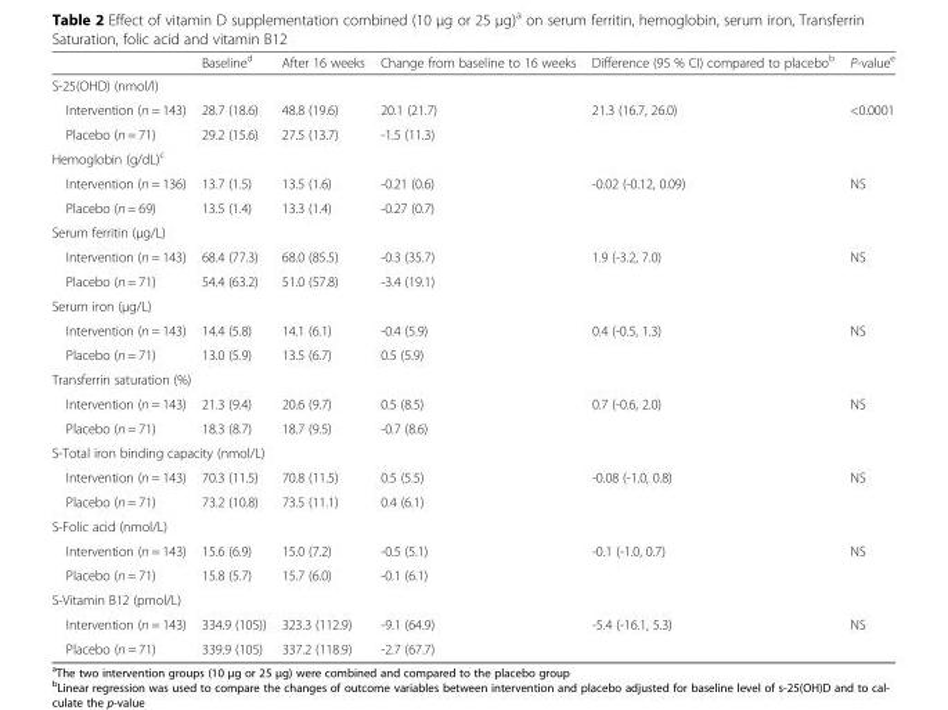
<table><thead><tr><td></td><td>Baseline<sup>d</sup></td><td>After 16 weeks</td><td>Change from baseline to 16 weeks</td><td>Difference (95 % CI) compared to placebo<sup>b</sup></td><td>P-value<sup>e</sup></td></tr></thead><tbody><tr><td colspan="6">S-25(OHD) (nmol/l)</td></tr><tr><td>Intervention (n = 143)</td><td>28.7 (18.6)</td><td>48.8 (19.6)</td><td>20.1 (21.7)</td><td>21.3 (16.7, 26.0)</td><td rowspan="2">&lt;0.0001</td></tr><tr><td>Placebo (n = 71)</td><td>29.2 (15.6)</td><td>27.5 (13.7)</td><td>-1.5 (11.3)</td><td></td></tr><tr><td colspan="6">Hemoglobin (g/dL)<sup>c</sup></td></tr><tr><td>Intervention (n = 136)</td><td>13.7 (1.5)</td><td>13.5 (1.6)</td><td>-0.21 (0.6)</td><td>-0.02 (-0.12, 0.09)</td><td rowspan="2">NS</td></tr><tr><td>Placebo (n = 69)</td><td>13.5 (1.4)</td><td>13.3 (1.4)</td><td>-0.27 (0.7)</td><td></td></tr><tr><td colspan="6">Serum ferritin (μg/L)</td></tr><tr><td>Intervention (n = 143)</td><td>68.4 (77.3)</td><td>68.0 (85.5)</td><td>-0.3 (35.7)</td><td>1.9 (-3.2, 7.0)</td><td rowspan="2">NS</td></tr><tr><td>Placebo (n = 71)</td><td>54.4 (63.2)</td><td>51.0 (57.8)</td><td>-3.4 (19.1)</td><td></td></tr><tr><td colspan="6">Serum iron (μg/L)</td></tr><tr><td>Intervention (n = 143)</td><td>14.4 (5.8)</td><td>14.1 (6.1)</td><td>-0.4 (5.9)</td><td>0.4 (-0.5, 1.3)</td><td rowspan="2">NS</td></tr><tr><td>Placebo (n = 71)</td><td>13.0 (5.9)</td><td>13.5 (6.7)</td><td>0.5 (5.9)</td><td></td></tr><tr><td colspan="6">Transferrin saturation (%)</td></tr><tr><td>Intervention (n = 143)</td><td>21.3 (9.4)</td><td>20.6 (9.7)</td><td>0.5 (8.5)</td><td>0.7 (-0.6, 2.0)</td><td rowspan="2">NS</td></tr><tr><td>Placebo (n = 71)</td><td>18.3 (8.7)</td><td>18.7 (9.5)</td><td>-0.7 (8.6)</td><td></td></tr><tr><td colspan="6">S-Total iron binding capacity (nmol/L)</td></tr><tr><td>Intervention (n = 143)</td><td>70.3 (11.5)</td><td>70.8 (11.5)</td><td>0.5 (5.5)</td><td>-0.08 (-1.0, 0.8)</td><td rowspan="2">NS</td></tr><tr><td>Placebo (n = 71)</td><td>73.2 (10.8)</td><td>73.5 (11.1)</td><td>0.4 (6.1)</td><td></td></tr><tr><td colspan="6">S-Folic acid (nmol/L)</td></tr><tr><td>Intervention (n = 143)</td><td>15.6 (6.9)</td><td>15.0 (7.2)</td><td>-0.5 (5.1)</td><td>-0.1 (-1.0, 0.7)</td><td rowspan="2">NS</td></tr><tr><td>Placebo (n = 71)</td><td>15.8 (5.7)</td><td>15.7 (6.0)</td><td>-0.1 (6.1)</td><td></td></tr><tr><td colspan="6">S-Vitamin B12 (pmol/L)</td></tr><tr><td>Intervention (n = 143)</td><td>334.9 (105))</td><td>323.3 (112.9)</td><td>-9.1 (64.9)</td><td>-5.4 (-16.1, 5.3)</td><td rowspan="2">NS</td></tr><tr><td>Placebo (n = 71)</td><td>339.9 (105)</td><td>337.2 (118.9)</td><td>-2.7 (67.7)</td><td></td></tr></tbody></table>